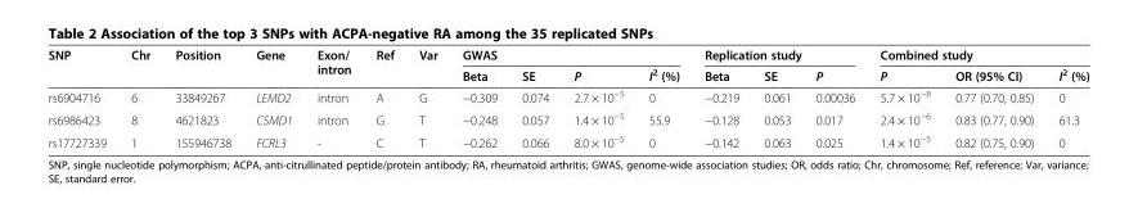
<table><thead><tr><td rowspan="2">SNP</td><td rowspan="2">Chr</td><td rowspan="2">Position</td><td rowspan="2">Gene</td><td rowspan="2">Exon/ intron</td><td rowspan="2">Ref</td><td rowspan="2">Var</td><td colspan="4">GWAS</td><td colspan="3">Replication study</td><td colspan="3">Combined study</td></tr><tr><td>Beta</td><td>SE</td><td>P</td><td>I<sup>2</sup> (%)</td><td>Beta</td><td>SE</td><td>P</td><td>P</td><td>OR (95% CI)</td><td>I<sup>2</sup> (%)</td></tr></thead><tbody><tr><td>rs6904716</td><td>6</td><td>33849267</td><td>LEMD2</td><td>intron</td><td>A</td><td>G</td><td>−0.309</td><td>0.074</td><td>2.7 × 10<sup>−5</sup></td><td>0</td><td>−0.219</td><td>0.061</td><td>0.00036</td><td>5.7 × 10<sup>−8</sup></td><td>0.77 (0.70, 0.85)</td><td>0</td></tr><tr><td>rs6986423</td><td>8</td><td>4621823</td><td>CSMD1</td><td>intron</td><td>G</td><td>T</td><td>−0.248</td><td>0.057</td><td>1.4 × 10<sup>−5</sup></td><td>55.9</td><td>−0.128</td><td>0.053</td><td>0.017</td><td>2.4 × 10<sup>−6</sup></td><td>0.83 (0.77, 0.90)</td><td>61.3</td></tr><tr><td>rs17727339</td><td>1</td><td>155946738</td><td>FCRL3</td><td>-</td><td>C</td><td>T</td><td>−0.262</td><td>0.066</td><td>8.0 × 10<sup>−5</sup></td><td>0</td><td>−0.142</td><td>0.063</td><td>0.025</td><td>1.4 × 10<sup>−5</sup></td><td>0.82 (0.75, 0.90)</td><td>0</td></tr></tbody></table>